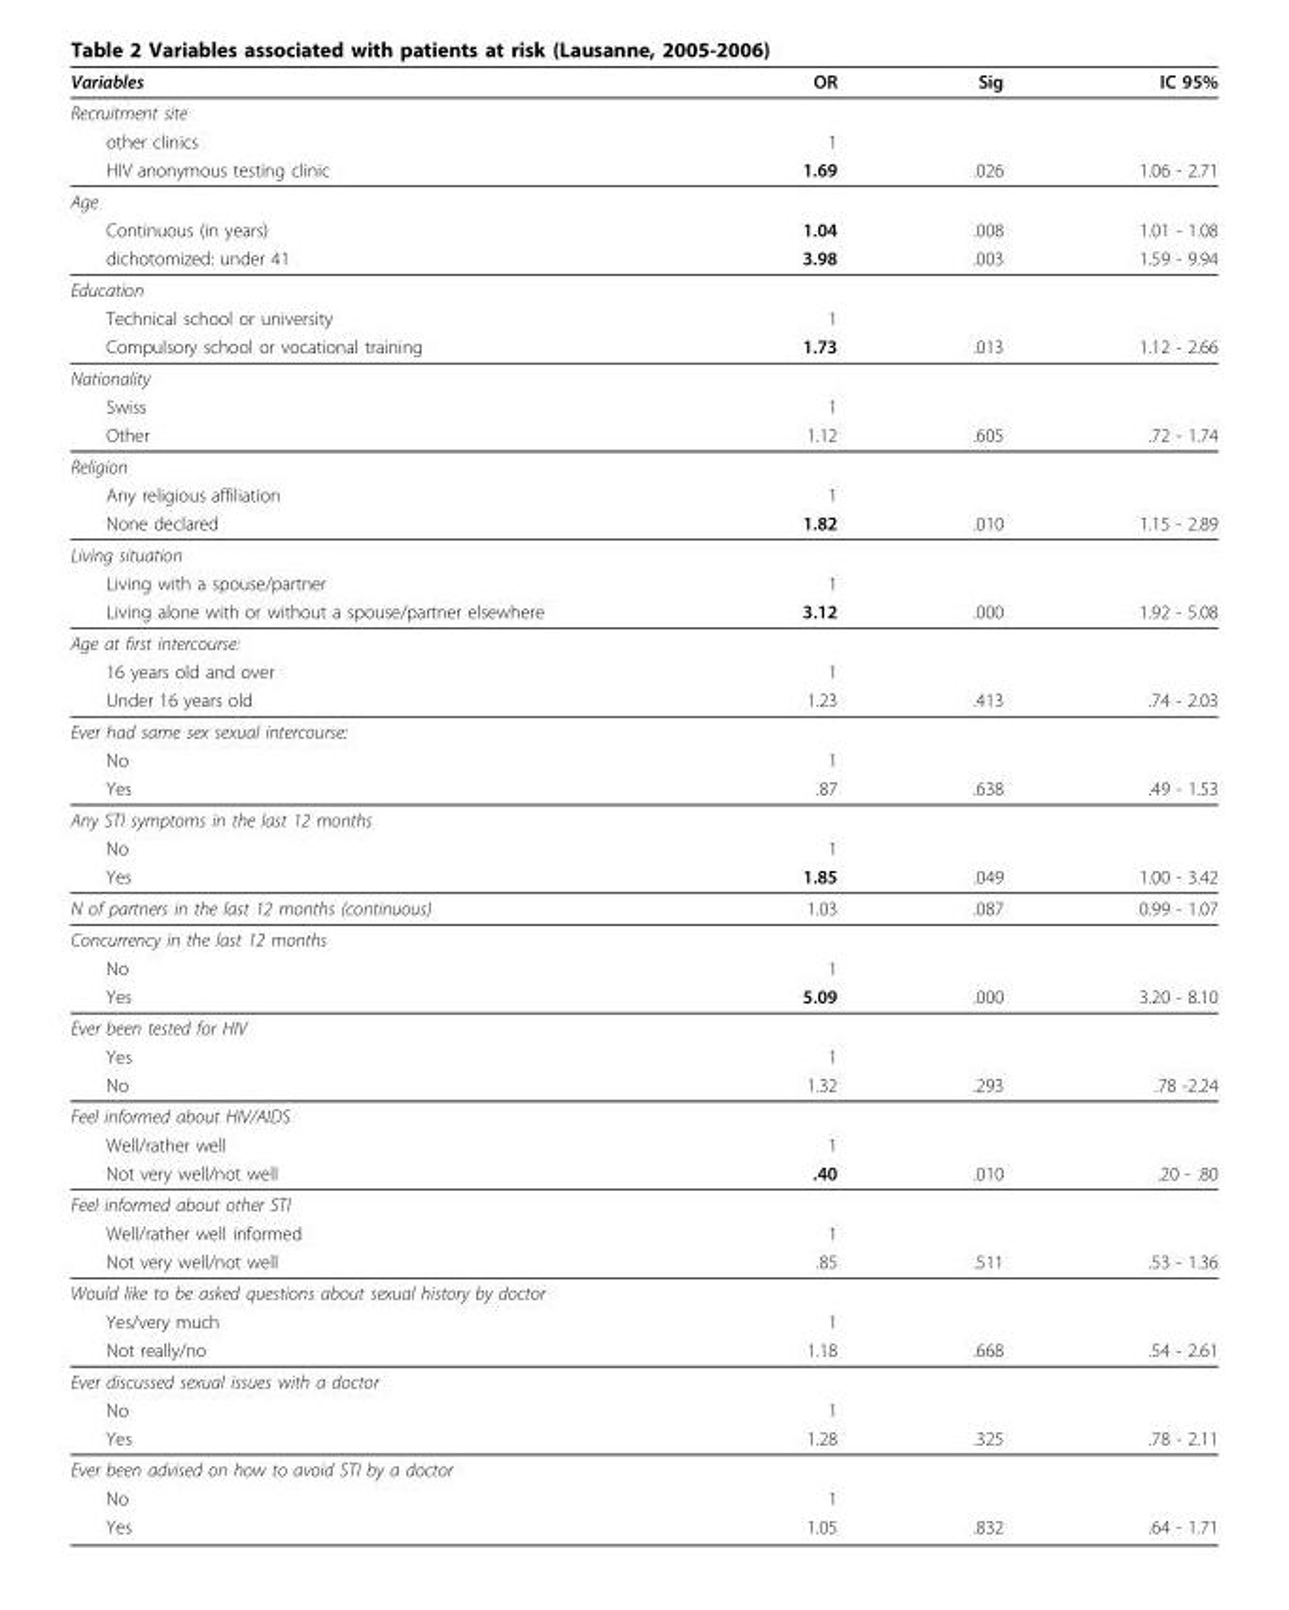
<table><thead><tr><td>Variables</td><td>OR</td><td>Sig</td><td>IC 95%</td></tr></thead><tbody><tr><td colspan="4">Recruitment site</td></tr><tr><td>other clinics</td><td>1</td><td></td><td></td></tr><tr><td>HIV anonymous testing clinic</td><td>1.69</td><td>.026</td><td>1.06 - 2.71</td></tr><tr><td colspan="4">Age</td></tr><tr><td>Continuous (in years)</td><td>1.04</td><td>.008</td><td>1.01 - 1.08</td></tr><tr><td>dichotomized: under 41</td><td>3.98</td><td>.003</td><td>1.59 - 9.94</td></tr><tr><td colspan="4">Education</td></tr><tr><td>Technical school or university</td><td>1</td><td></td><td></td></tr><tr><td>Compulsory school or vocational training</td><td>1.73</td><td>.013</td><td>1.12 - 2.66</td></tr><tr><td colspan="4">Nationality</td></tr><tr><td>Swiss</td><td>1</td><td></td><td></td></tr><tr><td>Other</td><td>1.12</td><td>.605</td><td>.72 - 1.74</td></tr><tr><td colspan="4">Religion</td></tr><tr><td>Any religious affiliation</td><td>1</td><td></td><td></td></tr><tr><td>None declared</td><td>1.82</td><td>.010</td><td>1.15 - 2.89</td></tr><tr><td colspan="4">Living situation</td></tr><tr><td>Living with a spouse/partner</td><td>1</td><td></td><td></td></tr><tr><td>Living alone with or without a spouse/partner elsewhere</td><td>3.12</td><td>.000</td><td>1.92 - 5.08</td></tr><tr><td colspan="4">Age at first intercourse:</td></tr><tr><td>16 years old and over</td><td>1</td><td></td><td></td></tr><tr><td>Under 16 years old</td><td>1.23</td><td>.413</td><td>.74 - 2.03</td></tr><tr><td colspan="4">Ever had same sex sexual intercourse:</td></tr><tr><td>No</td><td>1</td><td></td><td></td></tr><tr><td>Yes</td><td>.87</td><td>.638</td><td>.49 - 1.53</td></tr><tr><td colspan="4">Any STI symptoms in the last 12 months</td></tr><tr><td>No</td><td>1</td><td></td><td></td></tr><tr><td>Yes</td><td>1.85</td><td>.049</td><td>1.00 - 3.42</td></tr><tr><td>N of partners in the last 12 months (continuous)</td><td>1.03</td><td>.087</td><td>0.99 - 1.07</td></tr><tr><td colspan="4">Concurrency in the last 12 months</td></tr><tr><td>No</td><td>1</td><td></td><td></td></tr><tr><td>Yes</td><td>5.09</td><td>.000</td><td>3.20 - 8.10</td></tr><tr><td colspan="4">Ever been tested for HIV</td></tr><tr><td>Yes</td><td>1</td><td></td><td></td></tr><tr><td>No</td><td>1.32</td><td>.293</td><td>.78 -2.24</td></tr><tr><td colspan="4">Feel informed about HIV/AIDS</td></tr><tr><td>Well/rather well</td><td>1</td><td></td><td></td></tr><tr><td>Not very well/not well</td><td>.40</td><td>.010</td><td>.20 - .80</td></tr><tr><td colspan="4">Feel informed about other STI</td></tr><tr><td>Well/rather well informed</td><td>1</td><td></td><td></td></tr><tr><td>Not very well/not well</td><td>.85</td><td>.511</td><td>.53 - 1.36</td></tr><tr><td colspan="4">Would like to be asked questions about sexual history by doctor</td></tr><tr><td>Yes/very much</td><td>1</td><td></td><td></td></tr><tr><td>Not really/no</td><td>1.18</td><td>.668</td><td>.54 - 2.61</td></tr><tr><td colspan="4">Ever discussed sexual issues with a doctor</td></tr><tr><td>No</td><td>1</td><td></td><td></td></tr><tr><td>Yes</td><td>1.28</td><td>.325</td><td>.78 - 2.11</td></tr><tr><td colspan="4">Ever been advised on how to avoid STI by a doctor</td></tr><tr><td>No</td><td>1</td><td></td><td></td></tr><tr><td>Yes</td><td>1.05</td><td>.832</td><td>.64 - 1.71</td></tr></tbody></table>